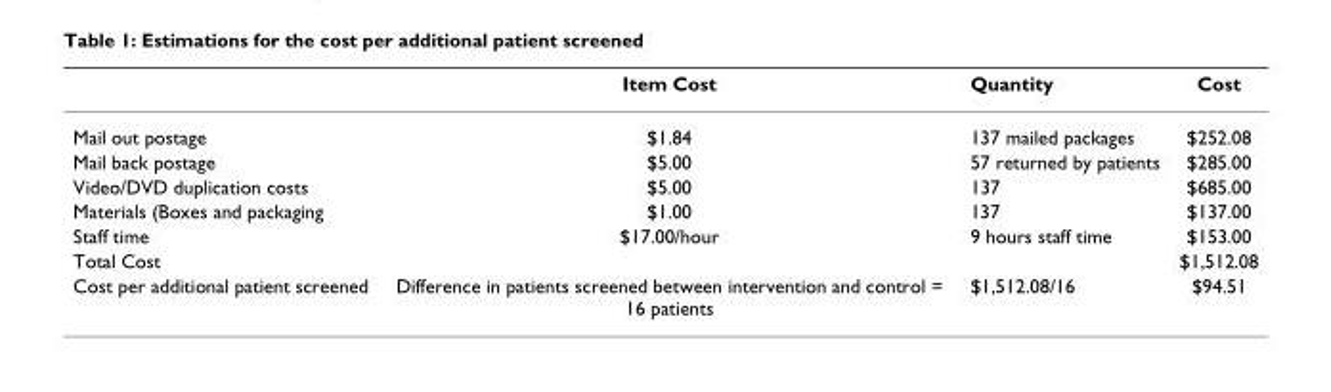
<table><thead><tr><td></td><td>Item Cost</td><td>Quantity</td><td>Cost</td></tr></thead><tbody><tr><td>Mail out postage</td><td>$1.84</td><td>137 mailed packages</td><td>$252.08</td></tr><tr><td>Mail back postage</td><td>$5.00</td><td>57 returned by patients</td><td>$285.00</td></tr><tr><td>Video/DVD duplication costs</td><td>$5.00</td><td>137</td><td>$685.00</td></tr><tr><td>Materials (Boxes and packaging</td><td>$1.00</td><td>137</td><td>$137.00</td></tr><tr><td>Staff time</td><td>$17.00/hour</td><td>9 hours staff time</td><td>$153.00</td></tr><tr><td>Total Cost</td><td></td><td></td><td>$1,512.08</td></tr><tr><td>Cost per additional patient screened</td><td>Difference in patients screened between intervention and control = 16 patients</td><td>$1,512.08/16</td><td>$94.51</td></tr></tbody></table>